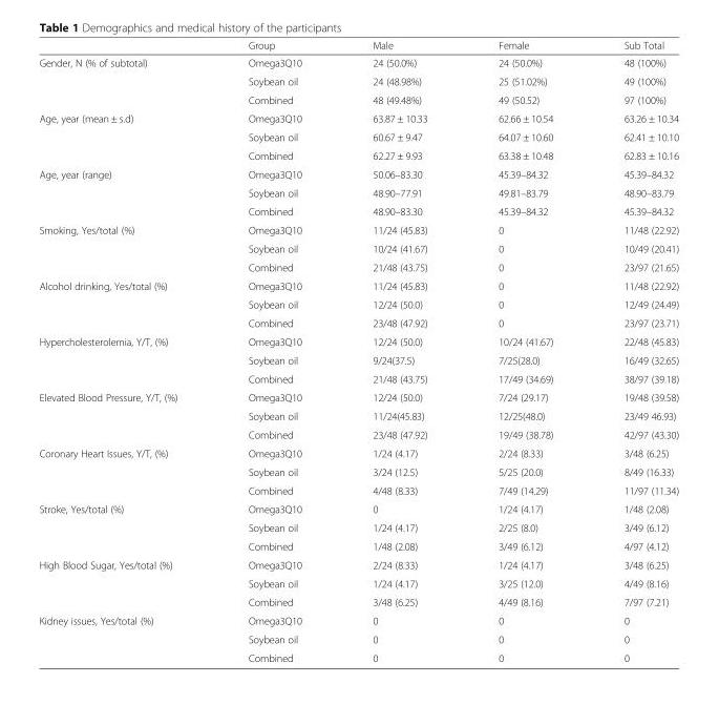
<table><thead><tr><td></td><td>Group</td><td>Male</td><td>Female</td><td>Sub Total</td></tr></thead><tbody><tr><td rowspan="3">Gender, N (% of subtotal)</td><td>Omega3Q10</td><td>24 (50.0%)</td><td>24 (50.0%)</td><td>48 (100%)</td></tr><tr><td>Soybean oil</td><td>24 (48.98%)</td><td>25 (51.02%)</td><td>49 (100%)</td></tr><tr><td>Combined</td><td>48 (49.48%)</td><td>49 (50.52)</td><td>97 (100%)</td></tr><tr><td rowspan="3">Age, year (mean ± s.d)</td><td>Omega3Q10</td><td>63.87 ± 10.33</td><td>62.66 ± 10.54</td><td>63.26 ± 10.34</td></tr><tr><td>Soybean oil</td><td>60.67 ± 9.47</td><td>64.07 ± 10.60</td><td>62.41 ± 10.10</td></tr><tr><td>Combined</td><td>62.27 ± 9.93</td><td>63.38 ± 10.48</td><td>62.83 ± 10.16</td></tr><tr><td rowspan="3">Age, year (range)</td><td>Omega3Q10</td><td>50.06–83.30</td><td>45.39–84.32</td><td>45.39–84.32</td></tr><tr><td>Soybean oil</td><td>48.90–77.91</td><td>49.81–83.79</td><td>48.90–83.79</td></tr><tr><td>Combined</td><td>48.90–83.30</td><td>45.39–84.32</td><td>45.39–84.32</td></tr><tr><td rowspan="3">Smoking, Yes/total (%)</td><td>Omega3Q10</td><td>11/24 (45.83)</td><td>0</td><td>11/48 (22.92)</td></tr><tr><td>Soybean oil</td><td>10/24 (41.67)</td><td>0</td><td>10/49 (20.41)</td></tr><tr><td>Combined</td><td>21/48 (43.75)</td><td>0</td><td>23/97 (21.65)</td></tr><tr><td rowspan="3">Alcohol drinking, Yes/total (%)</td><td>Omega3Q10</td><td>11/24 (45.83)</td><td>0</td><td>11/48 (22.92)</td></tr><tr><td>Soybean oil</td><td>12/24 (50.0)</td><td>0</td><td>12/49 (24.49)</td></tr><tr><td>Combined</td><td>23/48 (47.92)</td><td>0</td><td>23/97 (23.71)</td></tr><tr><td rowspan="3">Hypercholesterolemia, Y/T, (%)</td><td>Omega3Q10</td><td>12/24 (50.0)</td><td>10/24 (41.67)</td><td>22/48 (45.83)</td></tr><tr><td>Soybean oil</td><td>9/24(37.5)</td><td>7/25(28.0)</td><td>16/49 (32.65)</td></tr><tr><td>Combined</td><td>21/48 (43.75)</td><td>17/49 (34.69)</td><td>38/97 (39.18)</td></tr><tr><td rowspan="3">Elevated Blood Pressure, Y/T, (%)</td><td>Omega3Q10</td><td>12/24 (50.0)</td><td>7/24 (29.17)</td><td>19/48 (39.58)</td></tr><tr><td>Soybean oil</td><td>11/24(45.83)</td><td>12/25(48.0)</td><td>23/49 46.93)</td></tr><tr><td>Combined</td><td>23/48 (47.92)</td><td>19/49 (38.78)</td><td>42/97 (43.30)</td></tr><tr><td rowspan="3">Coronary Heart Issues, Y/T, (%)</td><td>Omega3Q10</td><td>1/24 (4.17)</td><td>2/24 (8.33)</td><td>3/48 (6.25)</td></tr><tr><td>Soybean oil</td><td>3/24 (12.5)</td><td>5/25 (20.0)</td><td>8/49 (16.33)</td></tr><tr><td>Combined</td><td>4/48 (8.33)</td><td>7/49 (14.29)</td><td>11/97 (11.34)</td></tr><tr><td rowspan="3">Stroke, Yes/total (%)</td><td>Omega3Q10</td><td>0</td><td>1/24 (4.17)</td><td>1/48 (2.08)</td></tr><tr><td>Soybean oil</td><td>1/24 (4.17)</td><td>2/25 (8.0)</td><td>3/49 (6.12)</td></tr><tr><td>Combined</td><td>1/48 (2.08)</td><td>3/49 (6.12)</td><td>4/97 (4.12)</td></tr><tr><td rowspan="3">High Blood Sugar, Yes/total (%)</td><td>Omega3Q10</td><td>2/24 (8.33)</td><td>1/24 (4.17)</td><td>3/48 (6.25)</td></tr><tr><td>Soybean oil</td><td>1/24 (4.17)</td><td>3/25 (12.0)</td><td>4/49 (8.16)</td></tr><tr><td>Combined</td><td>3/48 (6.25)</td><td>4/49 (8.16)</td><td>7/97 (7.21)</td></tr><tr><td rowspan="3">Kidney issues, Yes/total (%)</td><td>Omega3Q10</td><td>0</td><td>0</td><td>0</td></tr><tr><td>Soybean oil</td><td>0</td><td>0</td><td>0</td></tr><tr><td>Combined</td><td>0</td><td>0</td><td>0</td></tr></tbody></table>